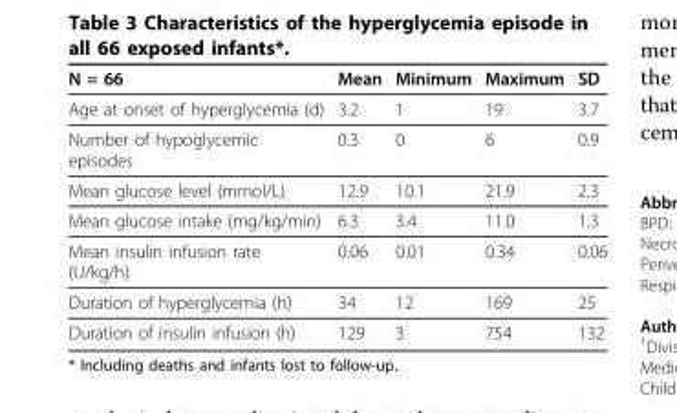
<table><thead><tr><td>N = 66</td><td>Mean</td><td>Minimum</td><td>Maximum</td><td>SD</td></tr></thead><tbody><tr><td>Age at onset of hyperglycemia (d)</td><td>3.2</td><td>1</td><td>19</td><td>3.7</td></tr><tr><td>Number of hypoglycemic episodes</td><td>0.3</td><td>0</td><td>6</td><td>0.9</td></tr><tr><td>Mean glucose level (mmol/L)</td><td>12.9</td><td>10.1</td><td>21.9</td><td>2.3</td></tr><tr><td>Mean glucose intake (mg/kg/min)</td><td>6.3</td><td>3.4</td><td>11.0</td><td>1.3</td></tr><tr><td>Mean insulin infusion rate (U/kg/h)</td><td>0.06</td><td>0.01</td><td>0.34</td><td>0.06</td></tr><tr><td>Duration of hyperglycemia (h)</td><td>34</td><td>12</td><td>169</td><td>25</td></tr><tr><td>Duration of insulin infusion (h)</td><td>129</td><td>3</td><td>754</td><td>132</td></tr></tbody></table>